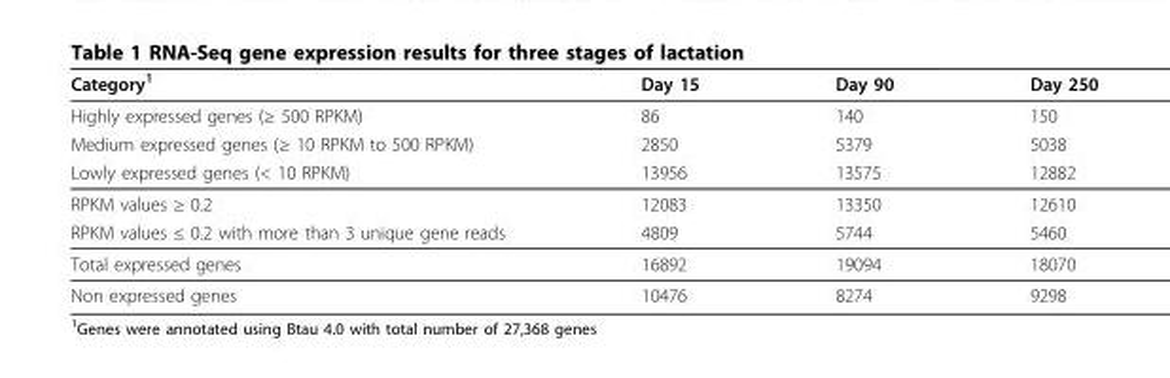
<table><thead><tr><td>Category<sup>1</sup></td><td>Day 15</td><td>Day 90</td><td>Day 250</td></tr></thead><tbody><tr><td>Highly expressed genes (≥ 500 RPKM)</td><td>86</td><td>140</td><td>150</td></tr><tr><td>Medium expressed genes (≥ 10 RPKM to 500 RPKM)</td><td>2850</td><td>5379</td><td>5038</td></tr><tr><td>Lowly expressed genes (&lt; 10 RPKM)</td><td>13956</td><td>13575</td><td>12882</td></tr><tr><td>RPKM values ≥ 0.2</td><td>12083</td><td>13350</td><td>12610</td></tr><tr><td>RPKM values ≤ 0.2 with more than 3 unique gene reads</td><td>4809</td><td>5744</td><td>5460</td></tr><tr><td>Total expressed genes</td><td>16892</td><td>19094</td><td>18070</td></tr><tr><td>Non expressed genes</td><td>10476</td><td>8274</td><td>9298</td></tr></tbody></table>